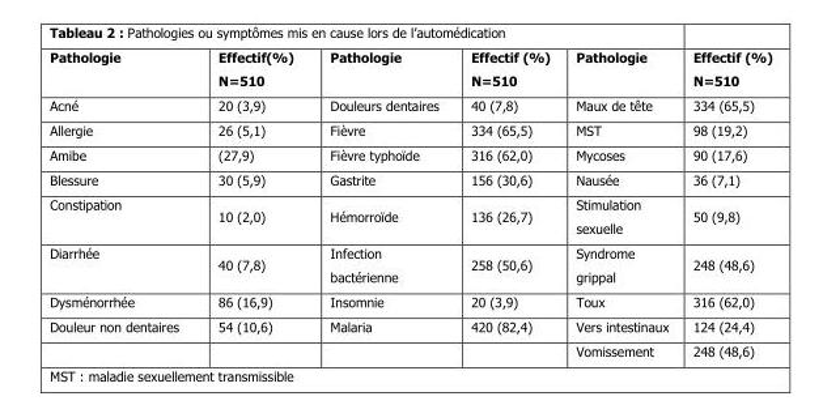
<table><thead><tr><td>Pathologie</td><td>Effectif(%) N=510</td><td>Pathologie</td><td>Effectif (%) N=510</td><td>Pathologie</td><td>Effectif (%) N=510</td></tr></thead><tbody><tr><td>Acné</td><td>20 (3,9)</td><td>Douleurs dentaires</td><td>40 (7,8)</td><td>Maux de tête</td><td>334 (65,5)</td></tr><tr><td>Allergie</td><td>26 (5,1)</td><td>Fièvre</td><td>334 (65,5)</td><td>MST</td><td>98 (19,2)</td></tr><tr><td>Amibe</td><td>(27,9)</td><td>Fièvre typhoïde</td><td>316 (62,0)</td><td>Mycoses</td><td>90 (17,6)</td></tr><tr><td>Blessure</td><td>30 (5,9)</td><td>Gastrite</td><td>156 (30,6)</td><td>Nausée</td><td>36 (7,1)</td></tr><tr><td>Constipation</td><td>10 (2,0)</td><td>Hémorroïde</td><td>136 (26,7)</td><td>Stimulation sexuelle</td><td>50 (9,8)</td></tr><tr><td>Diarrhée</td><td>40 (7,8)</td><td>Infection bactérienne</td><td>258 (50,6)</td><td>Syndrome grippal</td><td>248 (48,6)</td></tr><tr><td>Dysménorrhée</td><td>86 (16,9)</td><td>Insomnie</td><td>20 (3,9)</td><td>Toux</td><td>316 (62,0)</td></tr><tr><td rowspan="2">Douleur non dentaires</td><td>54 (10,6)</td><td>Malaria</td><td>420 (82,4)</td><td>Vers intestinaux</td><td>124 (24,4)</td></tr><tr><td></td><td></td><td></td><td>Vomissement</td><td>248 (48,6)</td></tr></tbody></table>